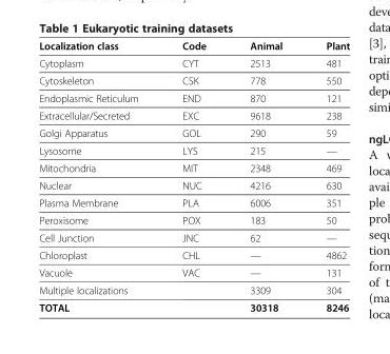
<table><thead><tr><td>Localization class</td><td>Code</td><td>Animal</td><td>Plant</td></tr></thead><tbody><tr><td>Cytoplasm</td><td>CYT</td><td>2513</td><td>481</td></tr><tr><td>Cytoskeleton</td><td>CSK</td><td>778</td><td>550</td></tr><tr><td>Endoplasmic Reticulum</td><td>END</td><td>870</td><td>121</td></tr><tr><td>Extracellular/Secreted</td><td>EXC</td><td>9618</td><td>238</td></tr><tr><td>Golgi Apparatus</td><td>GOL</td><td>290</td><td>59</td></tr><tr><td>Lysosome</td><td>LYS</td><td>215</td><td>—</td></tr><tr><td>Mitochondria</td><td>MIT</td><td>2348</td><td>469</td></tr><tr><td>Nuclear</td><td>NUC</td><td>4216</td><td>630</td></tr><tr><td>Plasma Membrane</td><td>PLA</td><td>6006</td><td>351</td></tr><tr><td>Peroxisome</td><td>POX</td><td>183</td><td>50</td></tr><tr><td>Cell Junction</td><td>JNC</td><td>62</td><td>—</td></tr><tr><td>Chloroplast</td><td>CHL</td><td>—</td><td>4862</td></tr><tr><td>Vacuole</td><td>VAC</td><td>—</td><td>131</td></tr><tr><td>Multiple localizations</td><td></td><td>3309</td><td>304</td></tr><tr><td>TOTAL</td><td></td><td>30318</td><td>8246</td></tr></tbody></table>